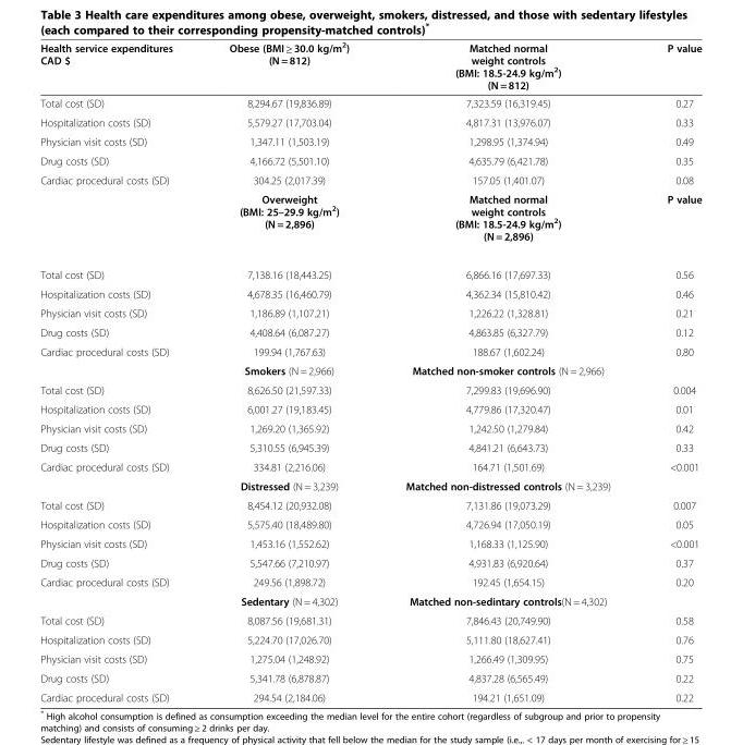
<table><thead><tr><td>Health service expenditures CAD $</td><td>Obese (BMI ≥ 30.0 kg/m<sup>2</sup>) (N = 812)</td><td>Matched normal weight controls (BMI: 18.5-24.9 kg/m<sup>2</sup>) (N = 812)</td><td>P value</td></tr></thead><tbody><tr><td>Total cost (SD)</td><td>8,294.67 (19,836.89)</td><td>7,323.59 (16,319.45)</td><td>0.27</td></tr><tr><td>Hospitalization costs (SD)</td><td>5,579.27 (17,703.04)</td><td>4,817.31 (13,976.07)</td><td>0.33</td></tr><tr><td>Physician visit costs (SD)</td><td>1,347.11 (1,503.19)</td><td>1,298.95 (1,374.94)</td><td>0.49</td></tr><tr><td>Drug costs (SD)</td><td>4,166.72 (5,501.10)</td><td>4,635.79 (6,421.78)</td><td>0.35</td></tr><tr><td rowspan="2">Cardiac procedural costs (SD)</td><td>304.25 (2,017.39)</td><td>157.05 (1,401.07)</td><td>0.08</td></tr><tr><td>Overweight (BMI: 25–29.9 kg/m<sup>2</sup>) (N = 2,896)</td><td>Matched normal weight controls (BMI: 18.5-24.9 kg/m<sup>2</sup>) (N = 2,896)</td><td>P value</td></tr><tr><td>Total cost (SD)</td><td>7,138.16 (18,443.25)</td><td>6,866.16 (17,697.33)</td><td>0.56</td></tr><tr><td>Hospitalization costs (SD)</td><td>4,678.35 (16,460.79)</td><td>4,362.34 (15,810.42)</td><td>0.46</td></tr><tr><td>Physician visit costs (SD)</td><td>1,186.89 (1,107.21)</td><td>1,226.22 (1,328.81)</td><td>0.21</td></tr><tr><td>Drug costs (SD)</td><td>4,408.64 (6,087.27)</td><td>4,863.85 (6,327.79)</td><td>0.12</td></tr><tr><td rowspan="2">Cardiac procedural costs (SD)</td><td>199.94 (1,767.63)</td><td>188.67 (1,602.24)</td><td>0.80</td></tr><tr><td>Smokers (N = 2,966)</td><td>Matched non-smoker controls (N = 2,966)</td><td></td></tr><tr><td>Total cost (SD)</td><td>8,626.50 (21,597.33)</td><td>7,299.83 (19,696.90)</td><td>0.004</td></tr><tr><td>Hospitalization costs (SD)</td><td>6,001.27 (19,183.45)</td><td>4,779.86 (17,320.47)</td><td>0.01</td></tr><tr><td>Physician visit costs (SD)</td><td>1,269.20 (1,365.92)</td><td>1,242.50 (1,279.84)</td><td>0.42</td></tr><tr><td>Drug costs (SD)</td><td>5,310.55 (6,945.39)</td><td>4,841.21 (6,643.73)</td><td>0.33</td></tr><tr><td rowspan="2">Cardiac procedural costs (SD)</td><td>334.81 (2,216.06)</td><td>164.71 (1,501.69)</td><td>&lt;0.001</td></tr><tr><td>Distressed (N = 3,239)</td><td>Matched non-distressed controls (N = 3,239)</td><td></td></tr><tr><td>Total cost (SD)</td><td>8,454.12 (20,932.08)</td><td>7,131.86 (19,073.29)</td><td>0.007</td></tr><tr><td>Hospitalization costs (SD)</td><td>5,575.40 (18,489.80)</td><td>4,726.94 (17,050.19)</td><td>0.05</td></tr><tr><td>Physician visit costs (SD)</td><td>1,453.16 (1,552.62)</td><td>1,168.33 (1,125.90)</td><td>&lt;0.001</td></tr><tr><td>Drug costs (SD)</td><td>5,547.66 (7,210.97)</td><td>4,931.83 (6,920.64)</td><td>0.37</td></tr><tr><td rowspan="2">Cardiac procedural costs (SD)</td><td>249.56 (1,898.72)</td><td>192.45 (1,654.15)</td><td>0.20</td></tr><tr><td>Sedentary (N = 4,302)</td><td>Matched non-sedintary controls(N = 4,302)</td><td></td></tr><tr><td>Total cost (SD)</td><td>8,087.56 (19,681.31)</td><td>7,846.43 (20,749.90)</td><td>0.58</td></tr><tr><td>Hospitalization costs (SD)</td><td>5,224.70 (17,026.70)</td><td>5,111.80 (18,627.41)</td><td>0.76</td></tr><tr><td>Physician visit costs (SD)</td><td>1,275.04 (1,248.92)</td><td>1,266.49 (1,309.95)</td><td>0.75</td></tr><tr><td>Drug costs (SD)</td><td>5,341.78 (6,878.87)</td><td>4,837.28 (6,565.49)</td><td>0.22</td></tr><tr><td>Cardiac procedural costs (SD)</td><td>294.54 (2,184.06)</td><td>194.21 (1,651.09)</td><td>0.22</td></tr></tbody></table>